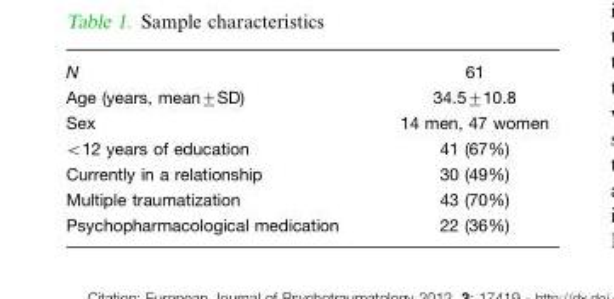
<table><tbody><tr><td>N</td><td>61</td></tr><tr><td>Age (years, mean±SD)</td><td>34.5±10.8</td></tr><tr><td>Sex</td><td>14 men, 47 women</td></tr><tr><td>&lt;12 years of education</td><td>41 (67%)</td></tr><tr><td>Currently in a relationship</td><td>30 (49%)</td></tr><tr><td>Multiple traumatization</td><td>43 (70%)</td></tr><tr><td>Psychopharmacological medication</td><td>22 (36%)</td></tr></tbody></table>